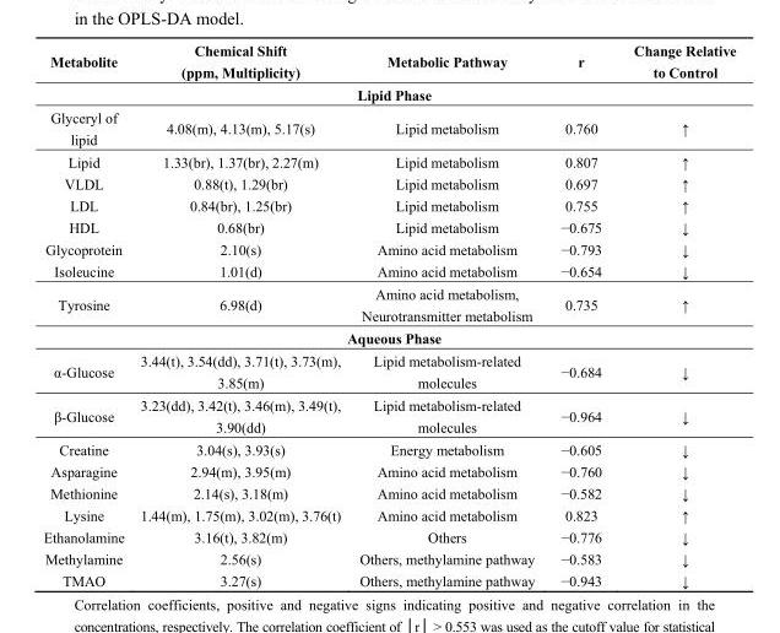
<table><thead><tr><td>Metabolite</td><td>Chemical Shift (ppm, Multiplicity)</td><td>Metabolic Pathway</td><td>r</td><td>Change Relative to Control</td></tr></thead><tbody><tr><td colspan="5">Lipid Phase</td></tr><tr><td>Glyceryl of lipid</td><td>4.08(m), 4.13(m), 5.17(s)</td><td>Lipid metabolism</td><td>0.760</td><td>↑</td></tr><tr><td>Lipid</td><td>1.33(br), 1.37(br), 2.27(m)</td><td>Lipid metabolism</td><td>0.807</td><td>↑</td></tr><tr><td>VLDL</td><td>0.88(t), 1.29(br)</td><td>Lipid metabolism</td><td>0.697</td><td>↑</td></tr><tr><td>LDL</td><td>0.84(br), 1.25(br)</td><td>Lipid metabolism</td><td>0.755</td><td>↑</td></tr><tr><td>HDL</td><td>0.68(br)</td><td>Lipid metabolism</td><td>−0.675</td><td>↓</td></tr><tr><td>Glycoprotein</td><td>2.10(s)</td><td>Amino acid metabolism</td><td>−0.793</td><td>↓</td></tr><tr><td>Isoleucine</td><td>1.01(d)</td><td>Amino acid metabolism</td><td>−0.654</td><td>↓</td></tr><tr><td>Tyrosine</td><td>6.98(d)</td><td>Amino acid metabolism, Neurotransmitter metabolism</td><td>0.735</td><td>↑</td></tr><tr><td colspan="5">Aqueous Phase</td></tr><tr><td>α-Glucose</td><td>3.44(t), 3.54(dd), 3.71(t), 3.73(m), 3.85(m)</td><td>Lipid metabolism-related molecules</td><td>−0.684</td><td>↓</td></tr><tr><td>β-Glucose</td><td>3.23(dd), 3.42(t), 3.46(m), 3.49(t), 3.90(dd)</td><td>Lipid metabolism-related molecules</td><td>−0.964</td><td>↓</td></tr><tr><td>Creatine</td><td>3.04(s), 3.93(s)</td><td>Energy metabolism</td><td>−0.605</td><td>↓</td></tr><tr><td>Asparagine</td><td>2.94(m), 3.95(m)</td><td>Amino acid metabolism</td><td>−0.760</td><td>↓</td></tr><tr><td>Methionine</td><td>2.14(s), 3.18(m)</td><td>Amino acid metabolism</td><td>−0.582</td><td>↓</td></tr><tr><td>Lysine</td><td>1.44(m), 1.75(m), 3.02(m), 3.76(t)</td><td>Amino acid metabolism</td><td>0.823</td><td>↑</td></tr><tr><td>Ethanolamine</td><td>3.16(t), 3.82(m)</td><td>Others</td><td>−0.776</td><td>↓</td></tr><tr><td>Methylamine</td><td>2.56(s)</td><td>Others, methylamine pathway</td><td>−0.583</td><td>↓</td></tr><tr><td>TMAO</td><td>3.27(s)</td><td>Others, methylamine pathway</td><td>−0.943</td><td>↓</td></tr></tbody></table>